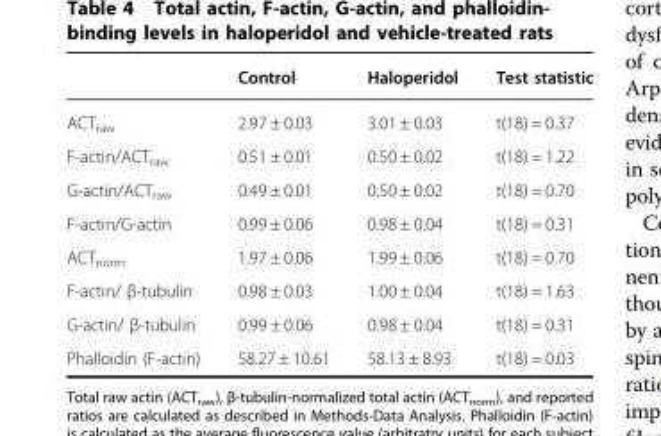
<table><thead><tr><td></td><td>Control</td><td>Haloperidol</td><td>Test statistic</td></tr></thead><tbody><tr><td>ACT<sub>raw</sub></td><td>2.97 ± 0.03</td><td>3.01 ± 0.03</td><td>t(18) = 0.37</td></tr><tr><td>F-actin/ACT<sub>raw</sub></td><td>0.51 ± 0.01</td><td>0.50 ± 0.02</td><td>t(18) = 1.22</td></tr><tr><td>G-actin/ACT<sub>raw</sub></td><td>0.49 ± 0.01</td><td>0.50 ± 0.02</td><td>t(18) = 0.70</td></tr><tr><td>F-actin/G-actin</td><td>0.99 ± 0.06</td><td>0.98 ± 0.04</td><td>t(18) = 0.31</td></tr><tr><td>ACT<sub>norm</sub></td><td>1.97 ± 0.06</td><td>1.99 ± 0.06</td><td>t(18) = 0.70</td></tr><tr><td>F-actin/ β-tubulin</td><td>0.98 ± 0.03</td><td>1.00 ± 0.04</td><td>t(18) = 1.63</td></tr><tr><td>G-actin/ β-tubulin</td><td>0.99 ± 0.06</td><td>0.98 ± 0.04</td><td>t(18) = 0.31</td></tr><tr><td>Phalloidin (F-actin)</td><td>58.27 ± 10.61</td><td>58.13 ± 8.93</td><td>t(18) = 0.03</td></tr></tbody></table>